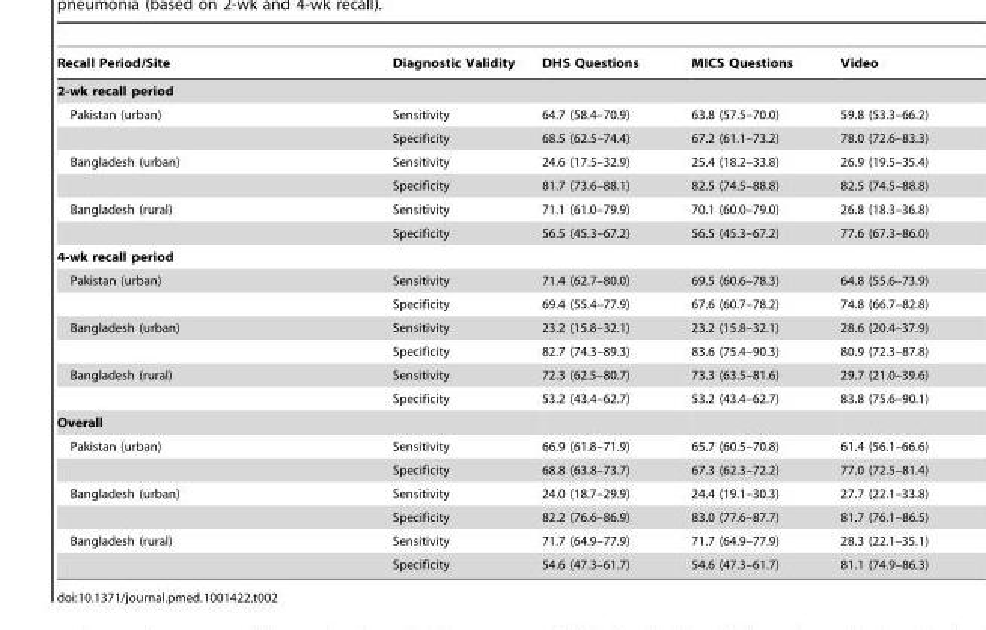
<table><thead><tr><td>Recall Period/Site</td><td>Diagnostic Validity</td><td>DHS Questions</td><td>MICS Questions</td><td>Video</td></tr></thead><tbody><tr><td colspan="5">2-wk recall period</td></tr><tr><td rowspan="2">Pakistan (urban)</td><td>Sensitivity</td><td>64.7 (58.4–70.9)</td><td>63.8 (57.5–70.0)</td><td>59.8 (53.3–66.2)</td></tr><tr><td>Specificity</td><td>68.5 (62.5–74.4)</td><td>67.2 (61.1–73.2)</td><td>78.0 (72.6–83.3)</td></tr><tr><td rowspan="2">Bangladesh (urban)</td><td>Sensitivity</td><td>24.6 (17.5–32.9)</td><td>25.4 (18.2–33.8)</td><td>26.9 (19.5–35.4)</td></tr><tr><td>Specificity</td><td>81.7 (73.6–88.1)</td><td>82.5 (74.5–88.8)</td><td>82.5 (74.5–88.8)</td></tr><tr><td rowspan="2">Bangladesh (rural)</td><td>Sensitivity</td><td>71.1 (61.0–79.9)</td><td>70.1 (60.0–79.0)</td><td>26.8 (18.3–36.8)</td></tr><tr><td>Specificity</td><td>56.5 (45.3–67.2)</td><td>56.5 (45.3–67.2)</td><td>77.6 (67.3–86.0)</td></tr><tr><td colspan="5">4-wk recall period</td></tr><tr><td rowspan="2">Pakistan (urban)</td><td>Sensitivity</td><td>71.4 (62.7–80.0)</td><td>69.5 (60.6–78.3)</td><td>64.8 (55.6–73.9)</td></tr><tr><td>Specificity</td><td>69.4 (55.4–77.9)</td><td>67.6 (60.7–78.2)</td><td>74.8 (66.7–82.8)</td></tr><tr><td rowspan="2">Bangladesh (urban)</td><td>Sensitivity</td><td>23.2 (15.8–32.1)</td><td>23.2 (15.8–32.1)</td><td>28.6 (20.4–37.9)</td></tr><tr><td>Specificity</td><td>82.7 (74.3–89.3)</td><td>83.6 (75.4–90.3)</td><td>80.9 (72.3–87.8)</td></tr><tr><td rowspan="2">Bangladesh (rural)</td><td>Sensitivity</td><td>72.3 (62.5–80.7)</td><td>73.3 (63.5–81.6)</td><td>29.7 (21.0–39.6)</td></tr><tr><td>Specificity</td><td>53.2 (43.4–62.7)</td><td>53.2 (43.4–62.7)</td><td>83.8 (75.6–90.1)</td></tr><tr><td colspan="5">Overall</td></tr><tr><td rowspan="2">Pakistan (urban)</td><td>Sensitivity</td><td>66.9 (61.8–71.9)</td><td>65.7 (60.5–70.8)</td><td>61.4 (56.1–66.6)</td></tr><tr><td>Specificity</td><td>68.8 (63.8–73.7)</td><td>67.3 (62.3–72.2)</td><td>77.0 (72.5–81.4)</td></tr><tr><td rowspan="2">Bangladesh (urban)</td><td>Sensitivity</td><td>24.0 (18.7–29.9)</td><td>24.4 (19.1–30.3)</td><td>27.7 (22.1–33.8)</td></tr><tr><td>Specificity</td><td>82.2 (76.6–86.9)</td><td>83.0 (77.6–87.7)</td><td>81.7 (76.1–86.5)</td></tr><tr><td rowspan="2">Bangladesh (rural)</td><td>Sensitivity</td><td>71.7 (64.9–77.9)</td><td>71.7 (64.9–77.9)</td><td>28.3 (22.1–35.1)</td></tr><tr><td>Specificity</td><td>54.6 (47.3–61.7)</td><td>54.6 (47.3–61.7)</td><td>81.1 (74.9–86.3)</td></tr></tbody></table>